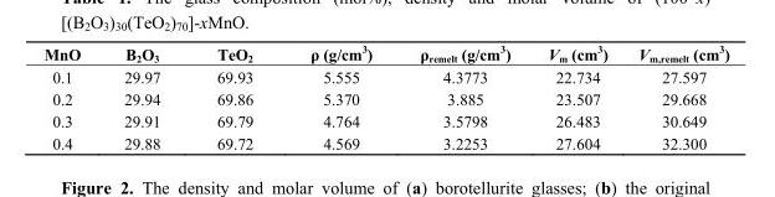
<table><thead><tr><td>MnO</td><td>B<sub>2</sub>O<sub>3</sub></td><td>TeO<sub>2</sub></td><td>ρ (g/cm<sup>3</sup>)</td><td>ρ<sub>remelt</sub> (g/cm<sup>3</sup>)</td><td>V<sub>m</sub> (cm<sup>3</sup>)</td><td>V<sub>m,remelt</sub> (cm<sup>3</sup>)</td></tr></thead><tbody><tr><td>0.1</td><td>29.97</td><td>69.93</td><td>5.555</td><td>4.3773</td><td>22.734</td><td>27.597</td></tr><tr><td>0.2</td><td>29.94</td><td>69.86</td><td>5.370</td><td>3.885</td><td>23.507</td><td>29.668</td></tr><tr><td>0.3</td><td>29.91</td><td>69.79</td><td>4.764</td><td>3.5798</td><td>26.483</td><td>30.649</td></tr><tr><td>0.4</td><td>29.88</td><td>69.72</td><td>4.569</td><td>3.2253</td><td>27.604</td><td>32.300</td></tr></tbody></table>